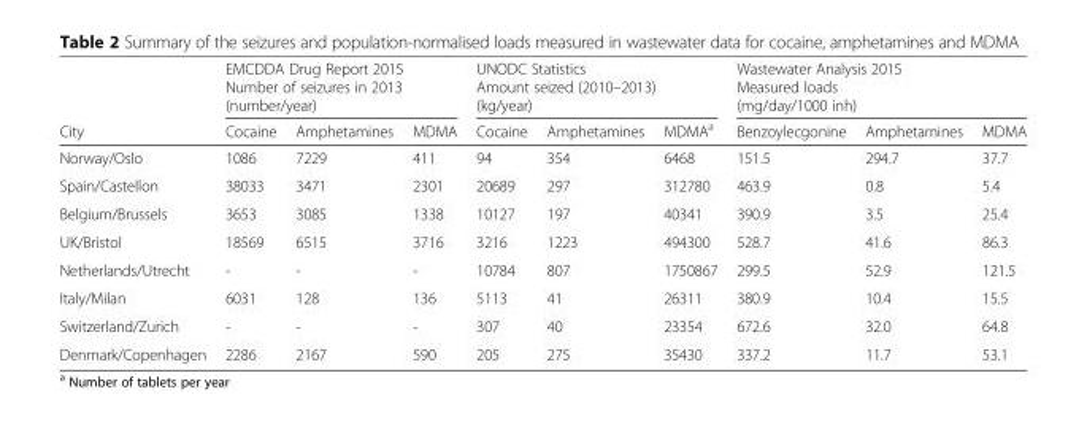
<table><thead><tr><td rowspan="4">City</td><td rowspan="3" colspan="3">EMCDDA Drug Report 2015 Number of seizures in 2013 (number/year)</td><td rowspan="3" colspan="3">UNODC Statistics Amount seized (2010–2013) (kg/year)</td><td rowspan="3" colspan="3">Wastewater Analysis 2015 Measured loads (mg/day/1000 inh)</td></tr><tr></tr><tr></tr><tr><td>Cocaine</td><td>Amphetamines</td><td>MDMA</td><td>Cocaine</td><td>Amphetamines</td><td>MDMA<sup>a</sup></td><td>Benzoylecgonine</td><td>Amphetamines</td><td>MDMA</td></tr></thead><tbody><tr><td>Norway/Oslo</td><td>1086</td><td>7229</td><td>411</td><td>94</td><td>354</td><td>6468</td><td>151.5</td><td>294.7</td><td>37.7</td></tr><tr><td>Spain/Castellon</td><td>38033</td><td>3471</td><td>2301</td><td>20689</td><td>297</td><td>312780</td><td>463.9</td><td>0.8</td><td>5.4</td></tr><tr><td>Belgium/Brussels</td><td>3653</td><td>3085</td><td>1338</td><td>10127</td><td>197</td><td>40341</td><td>390.9</td><td>3.5</td><td>25.4</td></tr><tr><td>UK/Bristol</td><td>18569</td><td>6515</td><td>3716</td><td>3216</td><td>1223</td><td>494300</td><td>528.7</td><td>41.6</td><td>86.3</td></tr><tr><td>Netherlands/Utrecht</td><td>-</td><td>-</td><td>-</td><td>10784</td><td>807</td><td>1750867</td><td>299.5</td><td>52.9</td><td>121.5</td></tr><tr><td>Italy/Milan</td><td>6031</td><td>128</td><td>136</td><td>5113</td><td>41</td><td>26311</td><td>380.9</td><td>10.4</td><td>15.5</td></tr><tr><td>Switzerland/Zurich</td><td>-</td><td>-</td><td>-</td><td>307</td><td>40</td><td>23354</td><td>672.6</td><td>32.0</td><td>64.8</td></tr><tr><td>Denmark/Copenhagen</td><td>2286</td><td>2167</td><td>590</td><td>205</td><td>275</td><td>35430</td><td>337.2</td><td>11.7</td><td>53.1</td></tr></tbody></table>